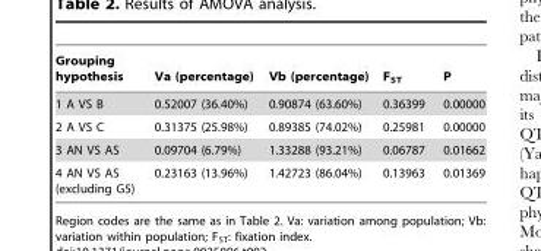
<table><thead><tr><td>Grouping hypothesis</td><td>Va (percentage)</td><td>Vb (percentage)</td><td>F<sub>ST</sub></td><td>P</td></tr></thead><tbody><tr><td>1 A VS B</td><td>0.52007 (36.40%)</td><td>0.90874 (63.60%)</td><td>0.36399</td><td>0.00000</td></tr><tr><td>2 A VS C</td><td>0.31375 (25.98%)</td><td>0.89385 (74.02%)</td><td>0.25981</td><td>0.00000</td></tr><tr><td>3 AN VS AS</td><td>0.09704 (6.79%)</td><td>1.33288 (93.21%)</td><td>0.06787</td><td>0.01662</td></tr><tr><td>4 AN VS AS (excluding G5)</td><td>0.23163 (13.96%)</td><td>1.42723 (86.04%)</td><td>0.13963</td><td>0.01369</td></tr></tbody></table>